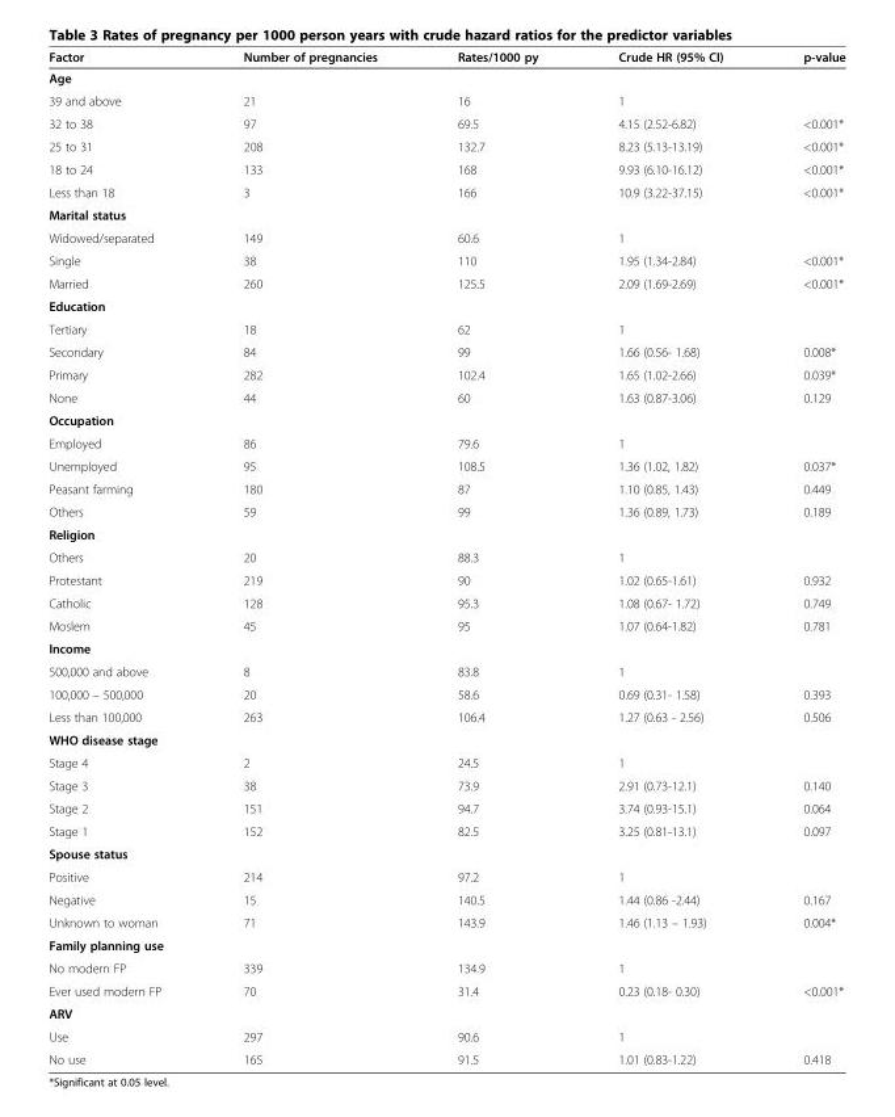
<table><thead><tr><td>Factor</td><td>Number of pregnancies</td><td>Rates/1000 py</td><td>Crude HR (95% CI)</td><td>p-value</td></tr></thead><tbody><tr><td colspan="5">Age</td></tr><tr><td>39 and above</td><td>21</td><td>16</td><td>1</td><td></td></tr><tr><td>32 to 38</td><td>97</td><td>69.5</td><td>4.15 (2.52-6.82)</td><td>&lt;0.001*</td></tr><tr><td>25 to 31</td><td>208</td><td>132.7</td><td>8.23 (5.13-13.19)</td><td>&lt;0.001*</td></tr><tr><td>18 to 24</td><td>133</td><td>168</td><td>9.93 (6.10-16.12)</td><td>&lt;0.001*</td></tr><tr><td>Less than 18</td><td>3</td><td>166</td><td>10.9 (3.22-37.15)</td><td>&lt;0.001*</td></tr><tr><td colspan="5">Marital status</td></tr><tr><td>Widowed/separated</td><td>149</td><td>60.6</td><td>1</td><td></td></tr><tr><td>Single</td><td>38</td><td>110</td><td>1.95 (1.34-2.84)</td><td>&lt;0.001*</td></tr><tr><td>Married</td><td>260</td><td>125.5</td><td>2.09 (1.69-2.69)</td><td>&lt;0.001*</td></tr><tr><td colspan="5">Education</td></tr><tr><td>Tertiary</td><td>18</td><td>62</td><td>1</td><td></td></tr><tr><td>Secondary</td><td>84</td><td>99</td><td>1.66 (0.56- 1.68)</td><td>0.008*</td></tr><tr><td>Primary</td><td>282</td><td>102.4</td><td>1.65 (1.02-2.66)</td><td>0.039*</td></tr><tr><td>None</td><td>44</td><td>60</td><td>1.63 (0.87-3.06)</td><td>0.129</td></tr><tr><td colspan="5">Occupation</td></tr><tr><td>Employed</td><td>86</td><td>79.6</td><td>1</td><td></td></tr><tr><td>Unemployed</td><td>95</td><td>108.5</td><td>1.36 (1.02, 1.82)</td><td>0.037*</td></tr><tr><td>Peasant farming</td><td>180</td><td>87</td><td>1.10 (0.85, 1.43)</td><td>0.449</td></tr><tr><td>Others</td><td>59</td><td>99</td><td>1.36 (0.89, 1.73)</td><td>0.189</td></tr><tr><td colspan="5">Religion</td></tr><tr><td>Others</td><td>20</td><td>88.3</td><td>1</td><td></td></tr><tr><td>Protestant</td><td>219</td><td>90</td><td>1.02 (0.65-1.61)</td><td>0.932</td></tr><tr><td>Catholic</td><td>128</td><td>95.3</td><td>1.08 (0.67- 1.72)</td><td>0.749</td></tr><tr><td>Moslem</td><td>45</td><td>95</td><td>1.07 (0.64-1.82)</td><td>0.781</td></tr><tr><td colspan="5">Income</td></tr><tr><td>500,000 and above</td><td>8</td><td>83.8</td><td>1</td><td></td></tr><tr><td>100,000 – 500,000</td><td>20</td><td>58.6</td><td>0.69 (0.31- 1.58)</td><td>0.393</td></tr><tr><td>Less than 100,000</td><td>263</td><td>106.4</td><td>1.27 (0.63 - 2.56)</td><td>0.506</td></tr><tr><td colspan="5">WHO disease stage</td></tr><tr><td>Stage 4</td><td>2</td><td>24.5</td><td>1</td><td></td></tr><tr><td>Stage 3</td><td>38</td><td>73.9</td><td>2.91 (0.73-12.1)</td><td>0.140</td></tr><tr><td>Stage 2</td><td>151</td><td>94.7</td><td>3.74 (0.93-15.1)</td><td>0.064</td></tr><tr><td>Stage 1</td><td>152</td><td>82.5</td><td>3.25 (0.81-13.1)</td><td>0.097</td></tr><tr><td colspan="5">Spouse status</td></tr><tr><td>Positive</td><td>214</td><td>97.2</td><td>1</td><td></td></tr><tr><td>Negative</td><td>15</td><td>140.5</td><td>1.44 (0.86 -2.44)</td><td>0.167</td></tr><tr><td>Unknown to woman</td><td>71</td><td>143.9</td><td>1.46 (1.13 – 1.93)</td><td>0.004*</td></tr><tr><td colspan="5">Family planning use</td></tr><tr><td>No modern FP</td><td>339</td><td>134.9</td><td>1</td><td></td></tr><tr><td>Ever used modern FP</td><td>70</td><td>31.4</td><td>0.23 (0.18- 0.30)</td><td>&lt;0.001*</td></tr><tr><td colspan="5">ARV</td></tr><tr><td>Use</td><td>297</td><td>90.6</td><td>1</td><td></td></tr><tr><td>No use</td><td>165</td><td>91.5</td><td>1.01 (0.83-1.22)</td><td>0.418</td></tr></tbody></table>